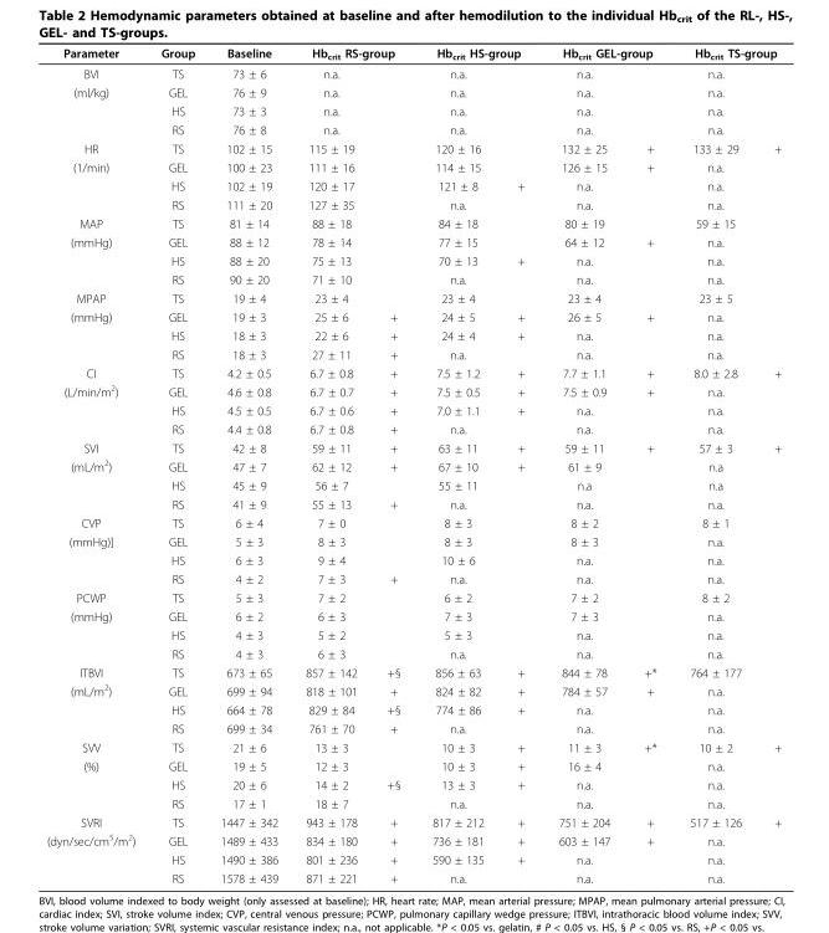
<table><thead><tr><td rowspan="2">Parameter BVI</td><td rowspan="2">Group TS</td><td rowspan="2">Baseline 73 ± 6</td><td colspan="2">Hb<sub>crit</sub> RS-group</td><td colspan="2">Hb<sub>crit</sub> HS-group</td><td colspan="2">Hb<sub>crit</sub> GEL-group</td><td colspan="2">Hb<sub>crit</sub> TS-group</td></tr><tr><td>n.a.</td><td></td><td>n.a.</td><td></td><td>n.a.</td><td></td><td>n.a.</td><td></td></tr></thead><tbody><tr><td rowspan="3">(ml/kg)</td><td>GEL</td><td>76 ± 9</td><td>n.a.</td><td></td><td>n.a.</td><td></td><td>n.a.</td><td></td><td>n.a.</td><td></td></tr><tr><td>HS</td><td>73 ± 3</td><td>n.a.</td><td></td><td>n.a.</td><td></td><td>n.a.</td><td></td><td>n.a.</td><td></td></tr><tr><td>RS</td><td>76 ± 8</td><td>n.a.</td><td></td><td>n.a.</td><td></td><td>n.a.</td><td></td><td>n.a.</td><td></td></tr><tr><td>HR</td><td>TS</td><td>102 ± 15</td><td>115 ± 19</td><td></td><td>120 ± 16</td><td></td><td>132 ± 25</td><td>+</td><td>133 ± 29</td><td>+</td></tr><tr><td rowspan="3">(1/min)</td><td>GEL</td><td>100 ± 23</td><td>111 ± 16</td><td></td><td>114 ± 15</td><td></td><td>126 ± 15</td><td>+</td><td>n.a.</td><td></td></tr><tr><td>HS</td><td>102 ± 19</td><td>120 ± 17</td><td></td><td>121 ± 8</td><td>+</td><td>n.a.</td><td></td><td>n.a.</td><td></td></tr><tr><td>RS</td><td>111 ± 20</td><td>127 ± 35</td><td></td><td>n.a.</td><td></td><td>n.a.</td><td></td><td>n.a.</td><td></td></tr><tr><td>MAP</td><td>TS</td><td>81 ± 14</td><td>88 ± 18</td><td></td><td>84 ± 18</td><td></td><td>80 ± 19</td><td></td><td>59 ± 15</td><td></td></tr><tr><td rowspan="3">(mmHg)</td><td>GEL</td><td>88 ± 12</td><td>78 ± 14</td><td></td><td>77 ± 15</td><td></td><td>64 ± 12</td><td>+</td><td>n.a.</td><td></td></tr><tr><td>HS</td><td>88 ± 20</td><td>75 ± 13</td><td></td><td>70 ± 13</td><td>+</td><td>n.a.</td><td></td><td>n.a.</td><td></td></tr><tr><td>RS</td><td>90 ± 20</td><td>71 ± 10</td><td></td><td>n.a.</td><td></td><td>n.a.</td><td></td><td>n.a.</td><td></td></tr><tr><td>MPAP</td><td>TS</td><td>19 ± 4</td><td>23 ± 4</td><td></td><td>23 ± 4</td><td></td><td>23 ± 4</td><td></td><td>23 ± 5</td><td></td></tr><tr><td rowspan="3">(mmHg)</td><td>GEL</td><td>19 ± 3</td><td>25 ± 6</td><td>+</td><td>24 ± 5</td><td>+</td><td>26 ± 5</td><td>+</td><td>n.a.</td><td></td></tr><tr><td>HS</td><td>18 ± 3</td><td>22 ± 6</td><td>+</td><td>24 ± 4</td><td>+</td><td>n.a.</td><td></td><td>n.a.</td><td></td></tr><tr><td>RS</td><td>18 ± 3</td><td>27 ± 11</td><td>+</td><td>n.a.</td><td></td><td>n.a.</td><td></td><td>n.a.</td><td></td></tr><tr><td>CI</td><td>TS</td><td>4.2 ± 0.5</td><td>6.7 ± 0.8</td><td>+</td><td>7.5 ± 1.2</td><td>+</td><td>7.7 ± 1.1</td><td>+</td><td>8.0 ± 2.8</td><td>+</td></tr><tr><td rowspan="3">(L/min/m<sup>2</sup>)</td><td>GEL</td><td>4.6 ± 0.8</td><td>6.7 ± 0.7</td><td>+</td><td>7.5 ± 0.5</td><td>+</td><td>7.5 ± 0.9</td><td>+</td><td>n.a.</td><td></td></tr><tr><td>HS</td><td>4.5 ± 0.5</td><td>6.7 ± 0.6</td><td>+</td><td>7.0 ± 1.1</td><td>+</td><td>n.a.</td><td></td><td>n.a.</td><td></td></tr><tr><td>RS</td><td>4.4 ± 0.8</td><td>6.7 ± 0.8</td><td>+</td><td>n.a.</td><td></td><td>n.a.</td><td></td><td>n.a.</td><td></td></tr><tr><td>SVI</td><td>TS</td><td>42 ± 8</td><td>59 ± 11</td><td>+</td><td>63 ± 11</td><td>+</td><td>59 ± 11</td><td>+</td><td>57 ± 3</td><td>+</td></tr><tr><td rowspan="3">(mL/m<sup>2</sup>)</td><td>GEL</td><td>47 ± 7</td><td>62 ± 12</td><td>+</td><td>67 ± 10</td><td>+</td><td>61 ± 9</td><td></td><td>n.a</td><td></td></tr><tr><td>HS</td><td>45 ± 9</td><td>56 ± 7</td><td></td><td>55 ± 11</td><td></td><td>n.a</td><td></td><td>n.a</td><td></td></tr><tr><td>RS</td><td>41 ± 9</td><td>55 ± 13</td><td>+</td><td>n.a.</td><td></td><td>n.a.</td><td></td><td>n.a.</td><td></td></tr><tr><td>CVP</td><td>TS</td><td>6 ± 4</td><td>7 ± 0</td><td></td><td>8 ± 3</td><td></td><td>8 ± 2</td><td></td><td>8 ± 1</td><td></td></tr><tr><td rowspan="3">(mmHg)]</td><td>GEL</td><td>5 ± 3</td><td>8 ± 3</td><td></td><td>8 ± 3</td><td></td><td>8 ± 3</td><td></td><td>n.a.</td><td></td></tr><tr><td>HS</td><td>6 ± 3</td><td>9 ± 4</td><td></td><td>10 ± 6</td><td></td><td>n.a.</td><td></td><td>n.a.</td><td></td></tr><tr><td>RS</td><td>4 ± 2</td><td>7 ± 3</td><td>+</td><td>n.a.</td><td></td><td>n.a.</td><td></td><td>n.a.</td><td></td></tr><tr><td>PCWP</td><td>TS</td><td>5 ± 3</td><td>7 ± 2</td><td></td><td>6 ± 2</td><td></td><td>7 ± 2</td><td></td><td>8 ± 2</td><td></td></tr><tr><td rowspan="3">(mmHg)</td><td>GEL</td><td>6 ± 2</td><td>6 ± 3</td><td></td><td>7 ± 3</td><td></td><td>7 ± 3</td><td></td><td>n.a.</td><td></td></tr><tr><td>HS</td><td>4 ± 3</td><td>5 ± 2</td><td></td><td>5 ± 3</td><td></td><td>n.a.</td><td></td><td>n.a.</td><td></td></tr><tr><td>RS</td><td>4 ± 3</td><td>6 ± 3</td><td></td><td>n.a.</td><td></td><td>n.a.</td><td></td><td>n.a.</td><td></td></tr><tr><td>ITBVI</td><td>TS</td><td>673 ± 65</td><td>857 ± 142</td><td>+§</td><td>856 ± 63</td><td>+</td><td>844 ± 78</td><td>+*</td><td>764 ± 177</td><td></td></tr><tr><td rowspan="3">(mL/m<sup>2</sup>)</td><td>GEL</td><td>699 ± 94</td><td>818 ± 101</td><td>+</td><td>824 ± 82</td><td>+</td><td>784 ± 57</td><td>+</td><td>n.a.</td><td></td></tr><tr><td>HS</td><td>664 ± 78</td><td>829 ± 84</td><td>+§</td><td>774 ± 86</td><td>+</td><td>n.a.</td><td></td><td>n.a.</td><td></td></tr><tr><td>RS</td><td>699 ± 34</td><td>761 ± 70</td><td>+</td><td>n.a.</td><td></td><td>n.a.</td><td></td><td>n.a.</td><td></td></tr><tr><td>SVV</td><td>TS</td><td>21 ± 6</td><td>13 ± 3</td><td></td><td>10 ± 3</td><td>+</td><td>11 ± 3</td><td>+*</td><td>10 ± 2</td><td>+</td></tr><tr><td rowspan="3">(%)</td><td>GEL</td><td>19 ± 5</td><td>12 ± 3</td><td></td><td>10 ± 3</td><td>+</td><td>16 ± 4</td><td></td><td>n.a.</td><td></td></tr><tr><td>HS</td><td>20 ± 6</td><td>14 ± 2</td><td>+§</td><td>13 ± 3</td><td>+</td><td>n.a.</td><td></td><td>n.a.</td><td></td></tr><tr><td>RS</td><td>17 ± 1</td><td>18 ± 7</td><td></td><td>n.a.</td><td></td><td>n.a.</td><td></td><td>n.a.</td><td></td></tr><tr><td>SVRI</td><td>TS</td><td>1447 ± 342</td><td>943 ± 178</td><td>+</td><td>817 ± 212</td><td>+</td><td>751 ± 204</td><td>+</td><td>517 ± 126</td><td>+</td></tr><tr><td rowspan="3">(dyn/sec/cm<sup>5</sup>/m<sup>2</sup>)</td><td>GEL</td><td>1489 ± 433</td><td>834 ± 180</td><td>+</td><td>736 ± 181</td><td>+</td><td>603 ± 147</td><td>+</td><td>n.a.</td><td></td></tr><tr><td>HS</td><td>1490 ± 386</td><td>801 ± 236</td><td>+</td><td>590 ± 135</td><td>+</td><td>n.a.</td><td></td><td>n.a.</td><td></td></tr><tr><td>RS</td><td>1578 ± 439</td><td>871 ± 221</td><td>+</td><td>n.a.</td><td></td><td>n.a.</td><td></td><td>n.a.</td><td></td></tr></tbody></table>